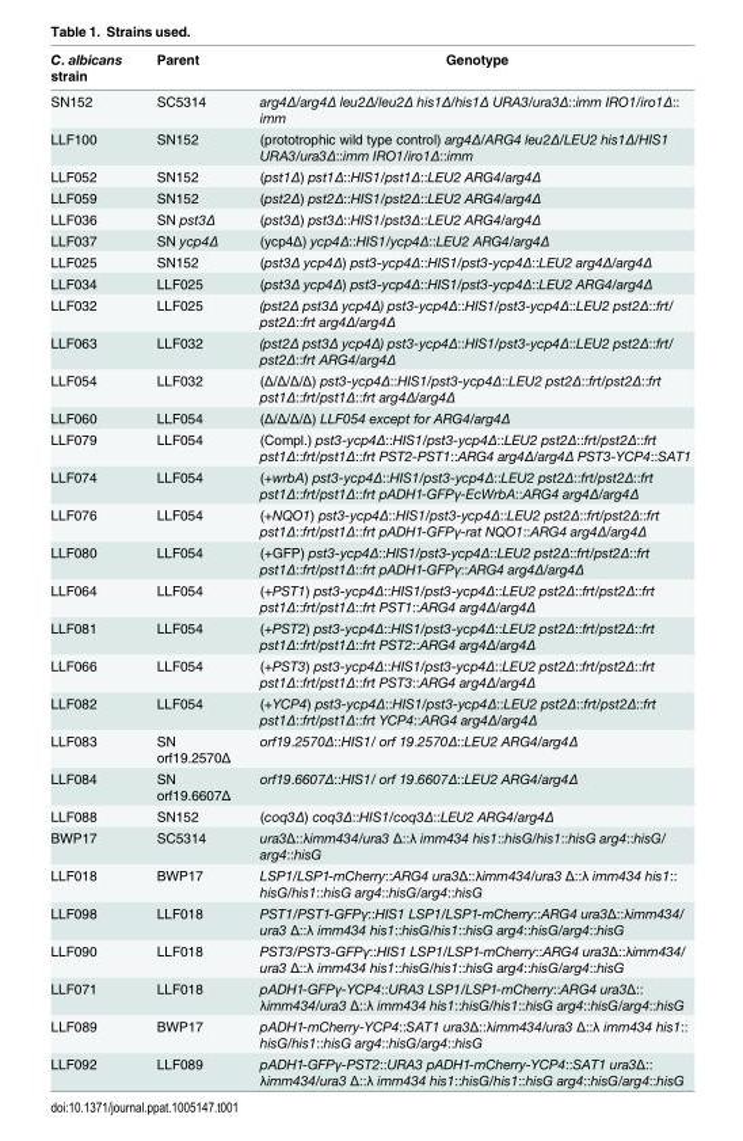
<table><thead><tr><td>C. albicans strain</td><td>Parent</td><td>Genotype</td></tr></thead><tbody><tr><td>SN152</td><td>SC5314</td><td>arg4Δ/arg4Δ leu2Δ/leu2Δ his1Δ/his1Δ URA3/ura3Δ::imm IRO1/iro1Δ:: imm</td></tr><tr><td>LLF100</td><td>SN152</td><td>(prototrophic wild type control) arg4Δ/ARG4 leu2Δ/LEU2 his1Δ/HIS1 URA3/ura3Δ::imm IRO1/iro1Δ::imm</td></tr><tr><td>LLF052</td><td>SN152</td><td>(pst1Δ) pst1Δ::HIS1/pst1Δ::LEU2 ARG4/arg4Δ</td></tr><tr><td>LLF059</td><td>SN152</td><td>(pst2Δ) pst2Δ::HIS1/pst2Δ::LEU2 ARG4/arg4Δ</td></tr><tr><td>LLF036</td><td>SN pst3Δ</td><td>(pst3Δ) pst3Δ::HIS1/pst3Δ::LEU2 ARG4/arg4Δ</td></tr><tr><td>LLF037</td><td>SN ycp4Δ</td><td>(ycp4Δ) ycp4Δ::HIS1/ycp4Δ::LEU2 ARG4/arg4Δ</td></tr><tr><td>LLF025</td><td>SN152</td><td>(pst3Δ ycp4Δ) pst3-ycp4Δ::HIS1/pst3-ycp4Δ::LEU2 arg4Δ/arg4Δ</td></tr><tr><td>LLF034</td><td>LLF025</td><td>(pst3Δ ycp4Δ) pst3-ycp4Δ::HIS1/pst3-ycp4Δ::LEU2 ARG4/arg4Δ</td></tr><tr><td>LLF032</td><td>LLF025</td><td>(pst2Δ pst3Δ ycp4Δ) pst3-ycp4Δ::HIS1/pst3-ycp4Δ::LEU2 pst2Δ::frt/ pst2Δ::frt arg4Δ/arg4Δ</td></tr><tr><td>LLF063</td><td>LLF032</td><td>(pst2Δ pst3Δ ycp4Δ) pst3-ycp4Δ::HIS1/pst3-ycp4Δ::LEU2 pst2Δ::frt/ pst2Δ::frt ARG4/arg4Δ</td></tr><tr><td>LLF054</td><td>LLF032</td><td>(Δ/Δ/Δ/Δ) pst3-ycp4Δ::HIS1/pst3-ycp4Δ::LEU2 pst2Δ::frt/pst2Δ::frt pst1Δ::frt/pst1Δ::frt arg4Δ/arg4Δ</td></tr><tr><td>LLF060</td><td>LLF054</td><td>(Δ/Δ/Δ/Δ) LLF054 except for ARG4/arg4Δ</td></tr><tr><td>LLF079</td><td>LLF054</td><td>(Compl.) pst3-ycp4Δ::HIS1/pst3-ycp4Δ::LEU2 pst2Δ::frt/pst2Δ::frt pst1Δ::frt/pst1Δ::frt PST2-PST1::ARG4 arg4Δ/arg4Δ PST3-YCP4::SAT1</td></tr><tr><td>LLF074</td><td>LLF054</td><td>(+wrbA) pst3-ycp4Δ::HIS1/pst3-ycp4Δ::LEU2 pst2Δ::frt/pst2Δ::frt pst1Δ::frt/pst1Δ::frt pADH1-GFPγ-EcWrbA::ARG4 arg4Δ/arg4Δ</td></tr><tr><td>LLF076</td><td>LLF054</td><td>(+NQO1) pst3-ycp4Δ::HIS1/pst3-ycp4Δ::LEU2 pst2Δ::frt/pst2Δ::frt pst1Δ::frt/pst1Δ::frt pADH1-GFPγ-rat NQO1::ARG4 arg4Δ/arg4Δ</td></tr><tr><td>LLF080</td><td>LLF054</td><td>(+GFP) pst3-ycp4Δ::HIS1/pst3-ycp4Δ::LEU2 pst2Δ::frt/pst2Δ::frt pst1Δ::frt/pst1Δ::frt pADH1-GFPγ::ARG4 arg4Δ/arg4Δ</td></tr><tr><td>LLF064</td><td>LLF054</td><td>(+PST1) pst3-ycp4Δ::HIS1/pst3-ycp4Δ::LEU2 pst2Δ::frt/pst2Δ::frt pst1Δ::frt/pst1Δ::frt PST1::ARG4 arg4Δ/arg4Δ</td></tr><tr><td>LLF081</td><td>LLF054</td><td>(+PST2) pst3-ycp4Δ::HIS1/pst3-ycp4Δ::LEU2 pst2Δ::frt/pst2Δ::frt pst1Δ::frt/pst1Δ::frt PST2::ARG4 arg4Δ/arg4Δ</td></tr><tr><td>LLF066</td><td>LLF054</td><td>(+PST3) pst3-ycp4Δ::HIS1/pst3-ycp4Δ::LEU2 pst2Δ::frt/pst2Δ::frt pst1Δ::frt/pst1Δ::frt PST3::ARG4 arg4Δ/arg4Δ</td></tr><tr><td>LLF082</td><td>LLF054</td><td>(+YCP4) pst3-ycp4Δ::HIS1/pst3-ycp4Δ::LEU2 pst2Δ::frt/pst2Δ::frt pst1Δ::frt/pst1Δ::frt YCP4::ARG4 arg4Δ/arg4Δ</td></tr><tr><td>LLF083</td><td>SN orf19.2570Δ</td><td>orf19.2570Δ::HIS1/ orf 19.2570Δ::LEU2 ARG4/arg4Δ</td></tr><tr><td>LLF084</td><td>SN orf19.6607Δ</td><td>orf19.6607Δ::HIS1/ orf 19.6607Δ::LEU2 ARG4/arg4Δ</td></tr><tr><td>LLF088</td><td>SN152</td><td>(coq3Δ) coq3Δ::HIS1/coq3Δ::LEU2 ARG4/arg4Δ</td></tr><tr><td>BWP17</td><td>SC5314</td><td>ura3Δ::λimm434/ura3 Δ::λ imm434 his1::hisG/his1::hisG arg4::hisG/ arg4::hisG</td></tr><tr><td>LLF018</td><td>BWP17</td><td>LSP1/LSP1-mCherry::ARG4 ura3Δ::λimm434/ura3 Δ::λ imm434 his1:: hisG/his1::hisG arg4::hisG/arg4::hisG</td></tr><tr><td>LLF098</td><td>LLF018</td><td>PST1/PST1-GFPγ::HIS1 LSP1/LSP1-mCherry::ARG4 ura3Δ::λimm434/ ura3 Δ::λ imm434 his1::hisG/his1::hisG arg4::hisG/arg4::hisG</td></tr><tr><td>LLF090</td><td>LLF018</td><td>PST3/PST3-GFPγ::HIS1 LSP1/LSP1-mCherry::ARG4 ura3Δ::λimm434/ ura3 Δ::λ imm434 his1::hisG/his1::hisG arg4::hisG/arg4::hisG</td></tr><tr><td>LLF071</td><td>LLF018</td><td>pADH1-GFPγ-YCP4::URA3 LSP1/LSP1-mCherry::ARG4 ura3Δ:: λimm434/ura3 Δ::λ imm434 his1::hisG/his1::hisG arg4::hisG/arg4::hisG</td></tr><tr><td>LLF089</td><td>BWP17</td><td>pADH1-mCherry-YCP4::SAT1 ura3Δ::λimm434/ura3 Δ::λ imm434 his1:: hisG/his1::hisG arg4::hisG/arg4::hisG</td></tr><tr><td>LLF092</td><td>LLF089</td><td>pADH1-GFPγ-PST2::URA3 pADH1-mCherry-YCP4::SAT1 ura3Δ:: λimm434/ura3 Δ::λ imm434 his1::hisG/his1::hisG arg4::hisG/arg4::hisG</td></tr></tbody></table>